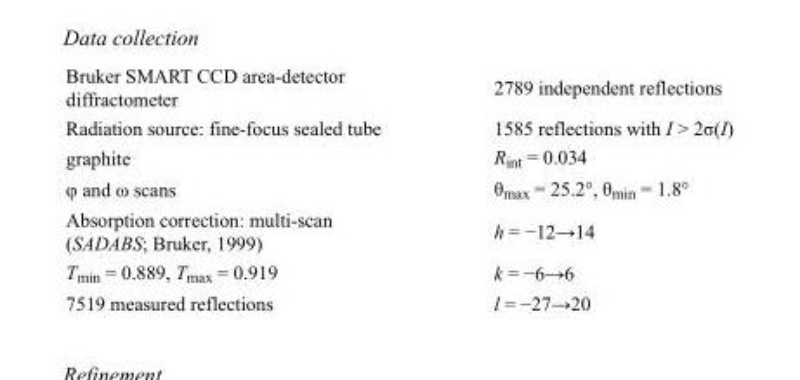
<table><tbody><tr><td>Bruker SMART CCD area-detector diffractometer</td><td>2789 independent reflections</td></tr><tr><td>Radiation source: fine-focus sealed tube</td><td>1585 reflections with I &gt; 2σ(I)</td></tr><tr><td>graphite</td><td>R<sub>int</sub> = 0.034</td></tr><tr><td>φ and ω scans</td><td>θ<sub>max</sub> = 25.2°, θ<sub>min</sub> = 1.8°</td></tr><tr><td>Absorption correction: multi-scan (SADABS; Bruker, 1999)</td><td>h = −12→14</td></tr><tr><td>T<sub>min</sub> = 0.889, T<sub>max</sub> = 0.919</td><td>k = −6→6</td></tr><tr><td>7519 measured reflections</td><td>l = −27→20</td></tr></tbody></table>